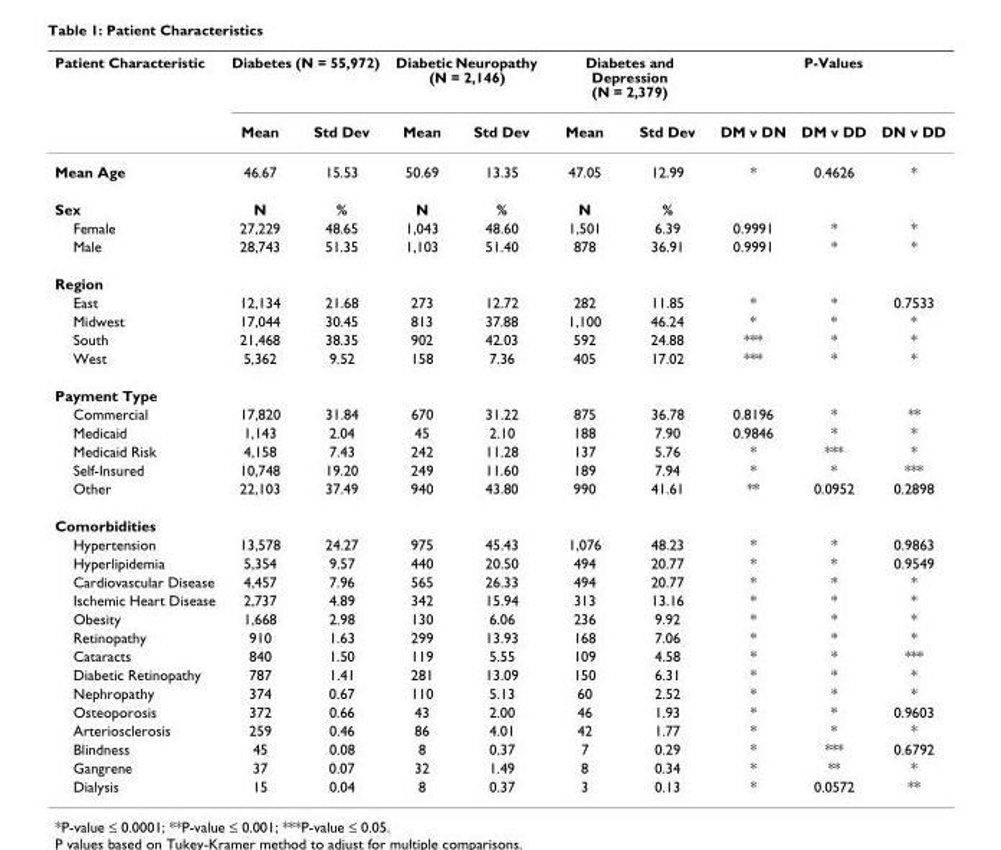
<table><thead><tr><td rowspan="2">Patient Characteristic</td><td colspan="2">Diabetes (N = 55,972)</td><td colspan="2">Diabetic Neuropathy (N = 2,146)</td><td colspan="2">Diabetes and Depression (N = 2,379)</td><td colspan="3">P-Values</td></tr><tr><td>Mean</td><td>Std Dev</td><td>Mean</td><td>Std Dev</td><td>Mean</td><td>Std Dev</td><td>DM v DN</td><td>DM v DD</td><td>DN v DD</td></tr></thead><tbody><tr><td>Mean Age</td><td>46.67</td><td>15.53</td><td>50.69</td><td>13.35</td><td>47.05</td><td>12.99</td><td>*</td><td>0.4626</td><td>*</td></tr><tr><td>Sex</td><td>N</td><td>%</td><td>N</td><td>%</td><td>N</td><td>%</td><td></td><td></td><td></td></tr><tr><td>Female</td><td>27,229</td><td>48.65</td><td>1,043</td><td>48.60</td><td>1,501</td><td>6.39</td><td>0.9991</td><td>*</td><td>*</td></tr><tr><td>Male</td><td>28,743</td><td>51.35</td><td>1,103</td><td>51.40</td><td>878</td><td>36.91</td><td>0.9991</td><td>*</td><td>*</td></tr><tr><td colspan="10">Region</td></tr><tr><td>East</td><td>12,134</td><td>21.68</td><td>273</td><td>12.72</td><td>282</td><td>11.85</td><td>*</td><td>*</td><td>0.7533</td></tr><tr><td>Midwest</td><td>17,044</td><td>30.45</td><td>813</td><td>37.88</td><td>1,100</td><td>46.24</td><td>*</td><td>*</td><td>*</td></tr><tr><td>South</td><td>21,468</td><td>38.35</td><td>902</td><td>42.03</td><td>592</td><td>24.88</td><td>***</td><td>*</td><td>*</td></tr><tr><td>West</td><td>5,362</td><td>9.52</td><td>158</td><td>7.36</td><td>405</td><td>17.02</td><td>***</td><td>*</td><td>*</td></tr><tr><td colspan="10">Payment Type</td></tr><tr><td>Commercial</td><td>17,820</td><td>31.84</td><td>670</td><td>31.22</td><td>875</td><td>36.78</td><td>0.8196</td><td>*</td><td>**</td></tr><tr><td>Medicaid</td><td>1,143</td><td>2.04</td><td>45</td><td>2.10</td><td>188</td><td>7.90</td><td>0.9846</td><td>*</td><td>*</td></tr><tr><td>Medicaid Risk</td><td>4,158</td><td>7.43</td><td>242</td><td>11.28</td><td>137</td><td>5.76</td><td>*</td><td>***</td><td>*</td></tr><tr><td>Self-Insured</td><td>10,748</td><td>19.20</td><td>249</td><td>11.60</td><td>189</td><td>7.94</td><td>*</td><td>*</td><td>***</td></tr><tr><td>Other</td><td>22,103</td><td>37.49</td><td>940</td><td>43.80</td><td>990</td><td>41.61</td><td>**</td><td>0.0952</td><td>0.2898</td></tr><tr><td colspan="10">Comorbidities</td></tr><tr><td>Hypertension</td><td>13,578</td><td>24.27</td><td>975</td><td>45.43</td><td>1,076</td><td>48.23</td><td>*</td><td>*</td><td>0.9863</td></tr><tr><td>Hyperlipidemia</td><td>5,354</td><td>9.57</td><td>440</td><td>20.50</td><td>494</td><td>20.77</td><td>*</td><td>*</td><td>0.9549</td></tr><tr><td>Cardiovascular Disease</td><td>4,457</td><td>7.96</td><td>565</td><td>26.33</td><td>494</td><td>20.77</td><td>*</td><td>*</td><td>*</td></tr><tr><td>Ischemic Heart Disease</td><td>2,737</td><td>4.89</td><td>342</td><td>15.94</td><td>313</td><td>13.16</td><td>*</td><td>*</td><td>*</td></tr><tr><td>Obesity</td><td>1,668</td><td>2.98</td><td>130</td><td>6.06</td><td>236</td><td>9.92</td><td>*</td><td>*</td><td>*</td></tr><tr><td>Retinopathy</td><td>910</td><td>1.63</td><td>299</td><td>13.93</td><td>168</td><td>7.06</td><td>*</td><td>*</td><td>*</td></tr><tr><td>Cataracts</td><td>840</td><td>1.50</td><td>119</td><td>5.55</td><td>109</td><td>4.58</td><td>*</td><td>*</td><td>***</td></tr><tr><td>Diabetic Retinopathy</td><td>787</td><td>1.41</td><td>281</td><td>13.09</td><td>150</td><td>6.31</td><td>*</td><td>*</td><td>*</td></tr><tr><td>Nephropathy</td><td>374</td><td>0.67</td><td>110</td><td>5.13</td><td>60</td><td>2.52</td><td>*</td><td>*</td><td>*</td></tr><tr><td>Osteoporosis</td><td>372</td><td>0.66</td><td>43</td><td>2.00</td><td>46</td><td>1.93</td><td>*</td><td>*</td><td>0.9603</td></tr><tr><td>Arteriosclerosis</td><td>259</td><td>0.46</td><td>86</td><td>4.01</td><td>42</td><td>1.77</td><td>*</td><td>*</td><td>*</td></tr><tr><td>Blindness</td><td>45</td><td>0.08</td><td>8</td><td>0.37</td><td>7</td><td>0.29</td><td>*</td><td>***</td><td>0.6792</td></tr><tr><td>Gangrene</td><td>37</td><td>0.07</td><td>32</td><td>1.49</td><td>8</td><td>0.34</td><td>*</td><td>**</td><td>*</td></tr><tr><td>Dialysis</td><td>15</td><td>0.04</td><td>8</td><td>0.37</td><td>3</td><td>0.13</td><td>*</td><td>0.0572</td><td>**</td></tr></tbody></table>